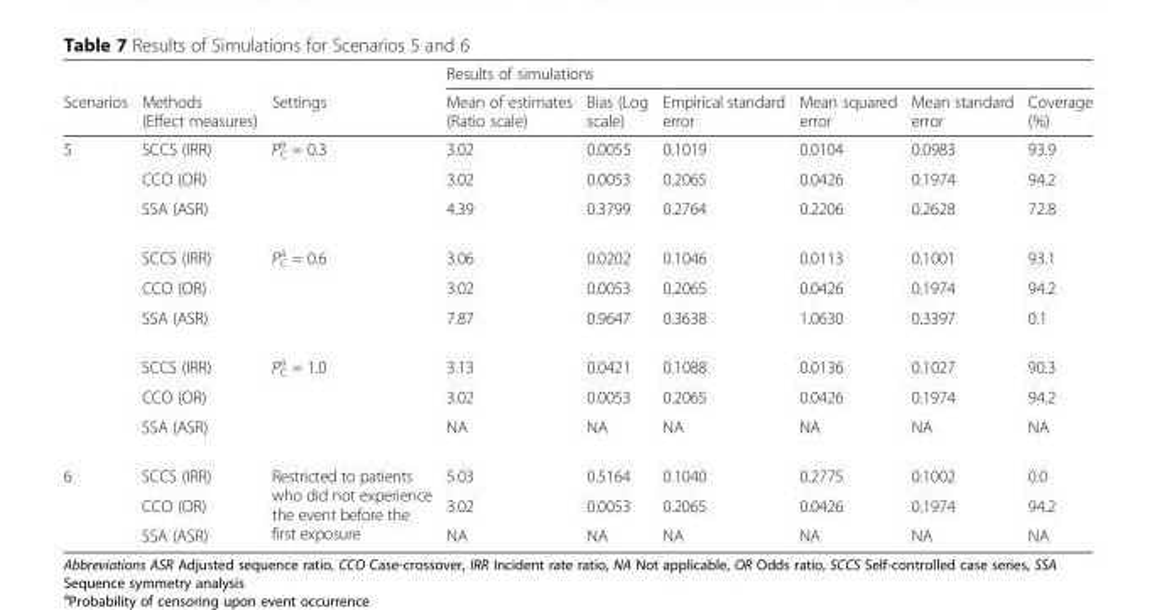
<table><thead><tr><td rowspan="2">Scenarios</td><td rowspan="2">Methods (Effect measures)</td><td rowspan="2">Settings</td><td colspan="6">Results of simulations</td></tr><tr><td>Mean of estimates (Ratio scale)</td><td>Bias (Log scale)</td><td>Empirical standard error</td><td>Mean squared error</td><td>Mean standard error</td><td>Coverage (%)</td></tr></thead><tbody><tr><td rowspan="9">5</td><td>SCCS (IRR)</td><td>P<sub>C</sub> <sup>a</sup> = 0.3</td><td>3.02</td><td>0.0055</td><td>0.1019</td><td>0.0104</td><td>0.0983</td><td>93.9</td></tr><tr><td>CCO (OR)</td><td></td><td>3.02</td><td>0.0053</td><td>0.2065</td><td>0.0426</td><td>0.1974</td><td>94.2</td></tr><tr><td>SSA (ASR)</td><td></td><td>4.39</td><td>0.3799</td><td>0.2764</td><td>0.2206</td><td>0.2628</td><td>72.8</td></tr><tr><td>SCCS (IRR)</td><td>P<sub>C</sub> <sup>a</sup> = 0.6</td><td>3.06</td><td>0.0202</td><td>0.1046</td><td>0.0113</td><td>0.1001</td><td>93.1</td></tr><tr><td>CCO (OR)</td><td></td><td>3.02</td><td>0.0053</td><td>0.2065</td><td>0.0426</td><td>0.1974</td><td>94.2</td></tr><tr><td>SSA (ASR)</td><td></td><td>7.87</td><td>0.9647</td><td>0.3638</td><td>1.0630</td><td>0.3397</td><td>0.1</td></tr><tr><td>SCCS (IRR)</td><td>P<sub>C</sub> <sup>a</sup> = 1.0</td><td>3.13</td><td>0.0421</td><td>0.1088</td><td>0.0136</td><td>0.1027</td><td>90.3</td></tr><tr><td>CCO (OR)</td><td></td><td>3.02</td><td>0.0053</td><td>0.2065</td><td>0.0426</td><td>0.1974</td><td>94.2</td></tr><tr><td>SSA (ASR)</td><td></td><td>NA</td><td>NA</td><td>NA</td><td>NA</td><td>NA</td><td>NA</td></tr><tr><td rowspan="3">6</td><td>SCCS (IRR)</td><td rowspan="3">Restricted to patients who did not experience the event before the first exposure</td><td>5.03</td><td>0.5164</td><td>0.1040</td><td>0.2775</td><td>0.1002</td><td>0.0</td></tr><tr><td>CCO (OR)</td><td>3.02</td><td>0.0053</td><td>0.2065</td><td>0.0426</td><td>0.1974</td><td>94.2</td></tr><tr><td>SSA (ASR)</td><td>NA</td><td>NA</td><td>NA</td><td>NA</td><td>NA</td><td>NA</td></tr></tbody></table>